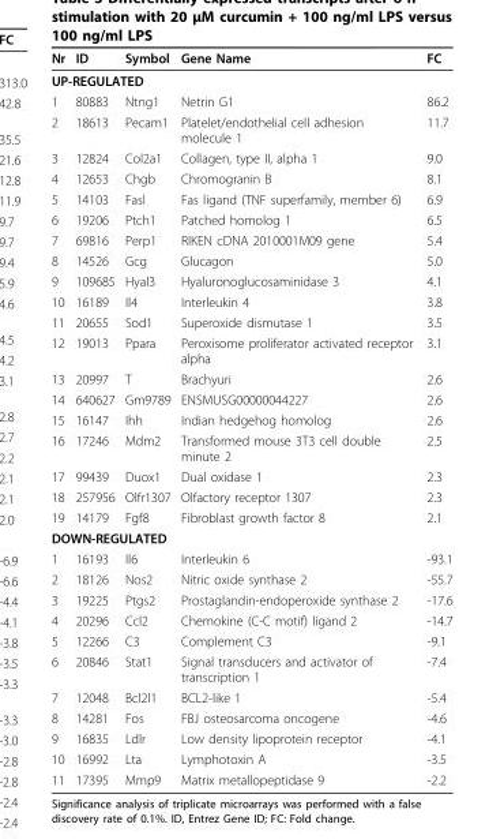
<table><thead><tr><td>Nr</td><td>ID</td><td>Symbol</td><td>Gene Name</td><td>FC</td></tr></thead><tbody><tr><td colspan="5">UP-REGULATED</td></tr><tr><td>1</td><td>80883</td><td>Ntng1</td><td>Netrin G1</td><td>86.2</td></tr><tr><td>2</td><td>18613</td><td>Pecam1</td><td>Platelet/endothelial cell adhesion molecule 1</td><td>11.7</td></tr><tr><td>3</td><td>12824</td><td>Col2a1</td><td>Collagen, type II, alpha 1</td><td>9.0</td></tr><tr><td>4</td><td>12653</td><td>Chgb</td><td>Chromogranin B</td><td>8.1</td></tr><tr><td>5</td><td>14103</td><td>Fasl</td><td>Fas ligand (TNF superfamily, member 6)</td><td>6.9</td></tr><tr><td>6</td><td>19206</td><td>Ptch1</td><td>Patched homolog 1</td><td>6.5</td></tr><tr><td>7</td><td>69816</td><td>Perp1</td><td>RIKEN cDNA 2010001M09 gene</td><td>5.4</td></tr><tr><td>8</td><td>14526</td><td>Gcg</td><td>Glucagon</td><td>5.0</td></tr><tr><td>9</td><td>109685</td><td>Hyal3</td><td>Hyaluronoglucosaminidase 3</td><td>4.1</td></tr><tr><td>10</td><td>16189</td><td>Il4</td><td>Interleukin 4</td><td>3.8</td></tr><tr><td>11</td><td>20655</td><td>Sod1</td><td>Superoxide dismutase 1</td><td>3.5</td></tr><tr><td>12</td><td>19013</td><td>Ppara</td><td>Peroxisome proliferator activated receptor alpha</td><td>3.1</td></tr><tr><td>13</td><td>20997</td><td>T</td><td>Brachyuri</td><td>2.6</td></tr><tr><td>14</td><td>640627</td><td>Gm9789</td><td>ENSMUSG00000044227</td><td>2.6</td></tr><tr><td>15</td><td>16147</td><td>Ihh</td><td>Indian hedgehog homolog</td><td>2.6</td></tr><tr><td>16</td><td>17246</td><td>Mdm2</td><td>Transformed mouse 3T3 cell double minute 2</td><td>2.5</td></tr><tr><td>17</td><td>99439</td><td>Duox1</td><td>Dual oxidase 1</td><td>2.3</td></tr><tr><td>18</td><td>257956</td><td>Olfr1307</td><td>Olfactory receptor 1307</td><td>2.3</td></tr><tr><td>19</td><td>14179</td><td>Fgf8</td><td>Fibroblast growth factor 8</td><td>2.1</td></tr><tr><td colspan="5">DOWN-REGULATED</td></tr><tr><td>1</td><td>16193</td><td>Il6</td><td>Interleukin 6</td><td>-93.1</td></tr><tr><td>2</td><td>18126</td><td>Nos2</td><td>Nitric oxide synthase 2</td><td>-55.7</td></tr><tr><td>3</td><td>19225</td><td>Ptgs2</td><td>Prostaglandin-endoperoxide synthase 2</td><td>-17.6</td></tr><tr><td>4</td><td>20296</td><td>Ccl2</td><td>Chemokine (C-C motif) ligand 2</td><td>-14.7</td></tr><tr><td>5</td><td>12266</td><td>C3</td><td>Complement C3</td><td>-9.1</td></tr><tr><td>6</td><td>20846</td><td>Stat1</td><td>Signal transducers and activator of transcription 1</td><td>-7.4</td></tr><tr><td>7</td><td>12048</td><td>Bcl2l1</td><td>BCL2-like 1</td><td>-5.4</td></tr><tr><td>8</td><td>14281</td><td>Fos</td><td>FBJ osteosarcoma oncogene</td><td>-4.6</td></tr><tr><td>9</td><td>16835</td><td>Ldlr</td><td>Low density lipoprotein receptor</td><td>-4.1</td></tr><tr><td>10</td><td>16992</td><td>Lta</td><td>Lymphotoxin A</td><td>-3.5</td></tr><tr><td>11</td><td>17395</td><td>Mmp9</td><td>Matrix metallopeptidase 9</td><td>-2.2</td></tr></tbody></table>